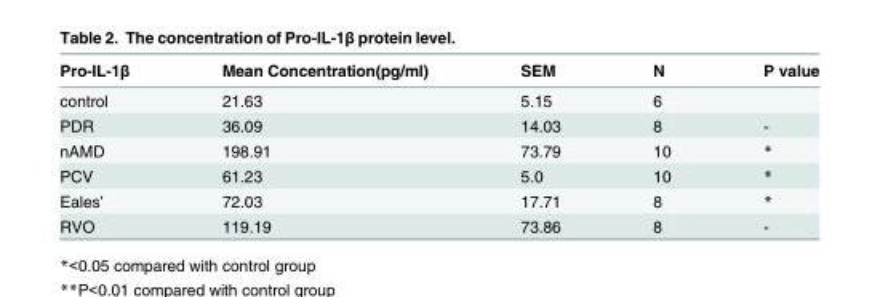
<table><thead><tr><td>Pro-IL-1β</td><td>Mean Concentration(pg/ml)</td><td>SEM</td><td>N</td><td>P value</td></tr></thead><tbody><tr><td>control</td><td>21.63</td><td>5.15</td><td>6</td><td></td></tr><tr><td>PDR</td><td>36.09</td><td>14.03</td><td>8</td><td>-</td></tr><tr><td>nAMD</td><td>198.91</td><td>73.79</td><td>10</td><td>*</td></tr><tr><td>PCV</td><td>61.23</td><td>5.0</td><td>10</td><td>*</td></tr><tr><td>Eales’</td><td>72.03</td><td>17.71</td><td>8</td><td>*</td></tr><tr><td>RVO</td><td>119.19</td><td>73.86</td><td>8</td><td>-</td></tr></tbody></table>